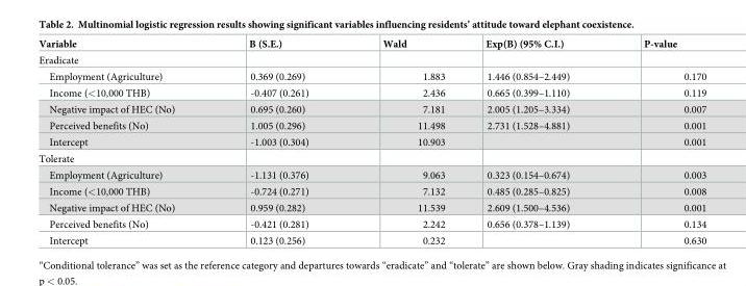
<table><thead><tr><td>Variable</td><td>B (S.E.)</td><td>Wald</td><td>Exp(B) (95% C.I.)</td><td>P-value</td></tr></thead><tbody><tr><td colspan="5">Eradicate</td></tr><tr><td>Employment (Agriculture)</td><td>0.369 (0.269)</td><td>1.883</td><td>1.446 (0.854–2.449)</td><td>0.170</td></tr><tr><td>Income (&lt;10,000 THB)</td><td>-0.407 (0.261)</td><td>2.436</td><td>0.665 (0.399–1.110)</td><td>0.119</td></tr><tr><td>Negative impact of HEC (No)</td><td>0.695 (0.260)</td><td>7.181</td><td>2.005 (1.205–3.334)</td><td>0.007</td></tr><tr><td>Perceived benefits (No)</td><td>1.005 (0.296)</td><td>11.498</td><td>2.731 (1.528–4.881)</td><td>0.001</td></tr><tr><td>Intercept</td><td>-1.003 (0.304)</td><td>10.903</td><td></td><td>0.001</td></tr><tr><td colspan="5">Tolerate</td></tr><tr><td>Employment (Agriculture)</td><td>-1.131 (0.376)</td><td>9.063</td><td>0.323 (0.154–0.674)</td><td>0.003</td></tr><tr><td>Income (&lt;10,000 THB)</td><td>-0.724 (0.271)</td><td>7.132</td><td>0.485 (0.285–0.825)</td><td>0.008</td></tr><tr><td>Negative impact of HEC (No)</td><td>0.959 (0.282)</td><td>11.539</td><td>2.609 (1.500–4.536)</td><td>0.001</td></tr><tr><td>Perceived benefits (No)</td><td>-0.421 (0.281)</td><td>2.242</td><td>0.656 (0.378–1.139)</td><td>0.134</td></tr><tr><td>Intercept</td><td>0.123 (0.256)</td><td>0.232</td><td></td><td>0.630</td></tr></tbody></table>